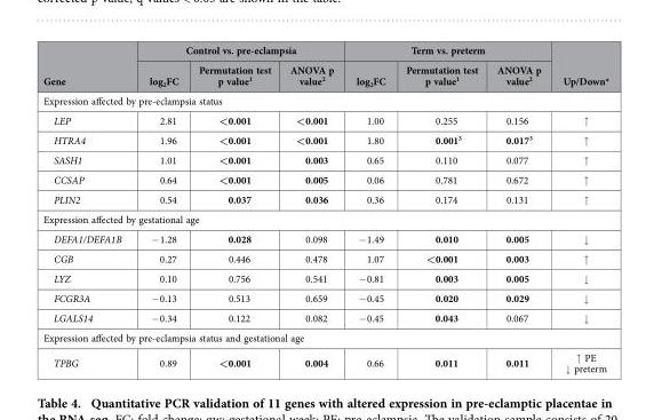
<table><thead><tr><td rowspan="2">Gene</td><td colspan="3">Control vs. pre-eclampsia</td><td colspan="3">Term vs. preterm</td><td rowspan="2">Up/Down*</td></tr><tr><td>log<sub>2</sub>FC</td><td>Permutation test p value<sup>1</sup></td><td>ANOVA p value<sup>2</sup></td><td>log<sub>2</sub>FC</td><td>Permutation test p value<sup>1</sup></td><td>ANOVA p value<sup>2</sup></td></tr></thead><tbody><tr><td colspan="8">Expression affected by pre-eclampsia status</td></tr><tr><td>LEP</td><td>2.81</td><td>&lt;0.001</td><td>&lt;0.001</td><td>1.00</td><td>0.255</td><td>0.156</td><td>↑</td></tr><tr><td>HTRA4</td><td>1.96</td><td>&lt;0.001</td><td>&lt;0.001</td><td>1.80</td><td>0.001<sup>3</sup></td><td>0.017<sup>3</sup></td><td>↑</td></tr><tr><td>SASH1</td><td>1.01</td><td>&lt;0.001</td><td>0.003</td><td>0.65</td><td>0.110</td><td>0.077</td><td>↑</td></tr><tr><td>CCSAP</td><td>0.64</td><td>&lt;0.001</td><td>0.005</td><td>0.06</td><td>0.781</td><td>0.672</td><td>↑</td></tr><tr><td>PLIN2</td><td>0.54</td><td>0.037</td><td>0.036</td><td>0.36</td><td>0.174</td><td>0.131</td><td>↑</td></tr><tr><td colspan="8">Expression affected by gestational age</td></tr><tr><td>DEFA1/DEFA1B</td><td>− 1.28</td><td>0.028</td><td>0.098</td><td>− 1.49</td><td>0.010</td><td>0.005</td><td>↓</td></tr><tr><td>CGB</td><td>0.27</td><td>0.446</td><td>0.478</td><td>1.07</td><td>&lt;0.001</td><td>0.003</td><td>↑</td></tr><tr><td>LYZ</td><td>0.10</td><td>0.756</td><td>0.541</td><td>− 0.81</td><td>0.003</td><td>0.005</td><td>↓</td></tr><tr><td>FCGR3A</td><td>− 0.13</td><td>0.513</td><td>0.659</td><td>− 0.45</td><td>0.020</td><td>0.029</td><td>↓</td></tr><tr><td>LGALS14</td><td>− 0.34</td><td>0.122</td><td>0.082</td><td>− 0.45</td><td>0.043</td><td>0.067</td><td>↓</td></tr><tr><td colspan="8">Expression affected by pre-eclampsia status and gestational age</td></tr><tr><td>TPBG</td><td>0.89</td><td>&lt;0.001</td><td>0.004</td><td>0.66</td><td>0.011</td><td>0.011</td><td>↑ PE ↓ preterm</td></tr></tbody></table>